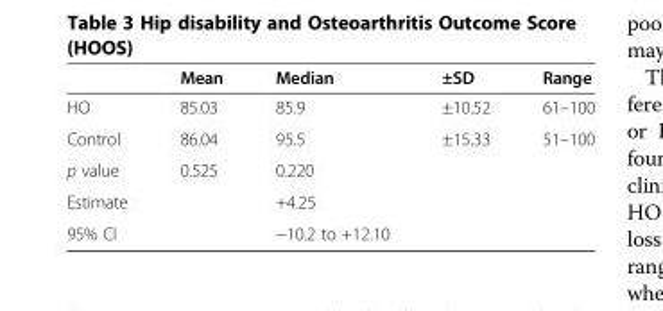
<table><thead><tr><td></td><td>Mean</td><td>Median</td><td>±SD</td><td>Range</td></tr></thead><tbody><tr><td>HO</td><td>85.03</td><td>85.9</td><td>±10.52</td><td>61–100</td></tr><tr><td>Control</td><td>86.04</td><td>95.5</td><td>±15.33</td><td>51–100</td></tr><tr><td>p value</td><td>0.525</td><td>0.220</td><td></td><td></td></tr><tr><td>Estimate</td><td></td><td>+4.25</td><td></td><td></td></tr><tr><td>95% CI</td><td></td><td>−10.2 to +12.10</td><td></td><td></td></tr></tbody></table>